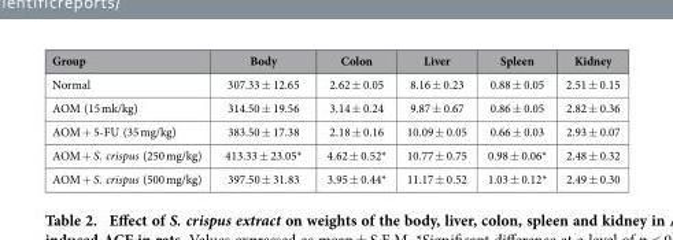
<table><thead><tr><td>Group</td><td>Body</td><td>Colon</td><td>Liver</td><td>Spleen</td><td>Kidney</td></tr></thead><tbody><tr><td>Normal</td><td>307.33 ± 12.65</td><td>2.62 ± 0.05</td><td>8.16 ± 0.23</td><td>0.88 ± 0.05</td><td>2.51 ± 0.15</td></tr><tr><td>AOM (15 mk/kg)</td><td>314.50 ± 19.56</td><td>3.14 ± 0.24</td><td>9.87 ± 0.67</td><td>0.86 ± 0.05</td><td>2.82 ± 0.36</td></tr><tr><td>AOM + 5-FU (35 mg/kg)</td><td>383.50 ± 17.38</td><td>2.18 ± 0.16</td><td>10.09 ± 0.05</td><td>0.66 ± 0.03</td><td>2.93 ± 0.07</td></tr><tr><td>AOM + S. crispus (250 mg/kg)</td><td>413.33 ± 23.05*</td><td>4.62 ± 0.52*</td><td>10.77 ± 0.75</td><td>0.98 ± 0.06*</td><td>2.48 ± 0.32</td></tr><tr><td>AOM + S. crispus (500 mg/kg)</td><td>397.50 ± 31.83</td><td>3.95 ± 0.44*</td><td>11.17 ± 0.52</td><td>1.03 ± 0.12*</td><td>2.49 ± 0.30</td></tr></tbody></table>